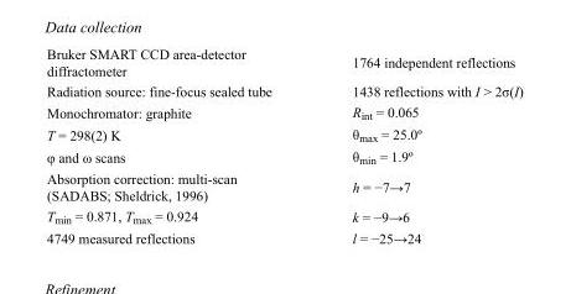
<table><tbody><tr><td>Bruker SMART CCD area-detector diffractometer</td><td>1764 independent reflections</td></tr><tr><td>Radiation source: fine-focus sealed tube</td><td>1438 reflections with I &gt; 2σ(I)</td></tr><tr><td>Monochromator: graphite</td><td>R<sub>int</sub> = 0.065</td></tr><tr><td>T = 298(2) K</td><td>θ<sub>max</sub> = 25.0º</td></tr><tr><td>φ and ω scans</td><td>θ<sub>min</sub> = 1.9º</td></tr><tr><td>Absorption correction: multi-scan (SADABS; Sheldrick, 1996)</td><td>h = −7→7</td></tr><tr><td>T<sub>min</sub> = 0.871, T<sub>max</sub> = 0.924</td><td>k = −9→6</td></tr><tr><td>4749 measured reflections</td><td>l = −25→24</td></tr></tbody></table>